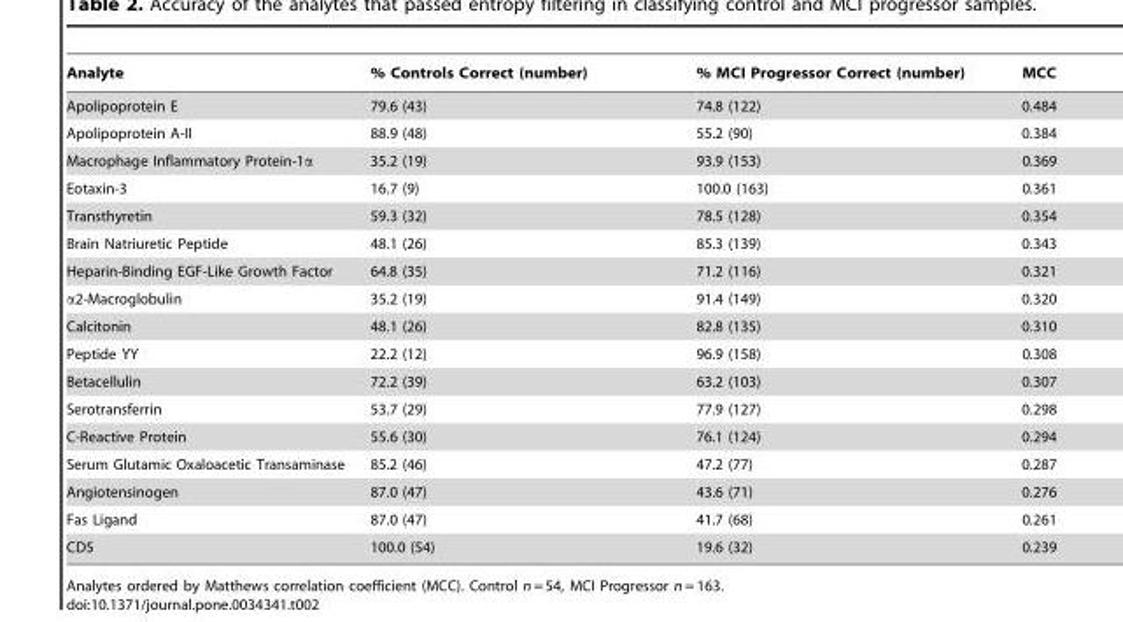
<table><thead><tr><td>Analyte</td><td>% Controls Correct (number)</td><td>% MCI Progressor Correct (number)</td><td>MCC</td></tr></thead><tbody><tr><td>Apolipoprotein E</td><td>79.6 (43)</td><td>74.8 (122)</td><td>0.484</td></tr><tr><td>Apolipoprotein A-II</td><td>88.9 (48)</td><td>55.2 (90)</td><td>0.384</td></tr><tr><td>Macrophage Inflammatory Protein-1α</td><td>35.2 (19)</td><td>93.9 (153)</td><td>0.369</td></tr><tr><td>Eotaxin-3</td><td>16.7 (9)</td><td>100.0 (163)</td><td>0.361</td></tr><tr><td>Transthyretin</td><td>59.3 (32)</td><td>78.5 (128)</td><td>0.354</td></tr><tr><td>Brain Natriuretic Peptide</td><td>48.1 (26)</td><td>85.3 (139)</td><td>0.343</td></tr><tr><td>Heparin-Binding EGF-Like Growth Factor</td><td>64.8 (35)</td><td>71.2 (116)</td><td>0.321</td></tr><tr><td>α2-Macroglobulin</td><td>35.2 (19)</td><td>91.4 (149)</td><td>0.320</td></tr><tr><td>Calcitonin</td><td>48.1 (26)</td><td>82.8 (135)</td><td>0.310</td></tr><tr><td>Peptide YY</td><td>22.2 (12)</td><td>96.9 (158)</td><td>0.308</td></tr><tr><td>Betacellulin</td><td>72.2 (39)</td><td>63.2 (103)</td><td>0.307</td></tr><tr><td>Serotransferrin</td><td>53.7 (29)</td><td>77.9 (127)</td><td>0.298</td></tr><tr><td>C-Reactive Protein</td><td>55.6 (30)</td><td>76.1 (124)</td><td>0.294</td></tr><tr><td>Serum Glutamic Oxaloacetic Transaminase</td><td>85.2 (46)</td><td>47.2 (77)</td><td>0.287</td></tr><tr><td>Angiotensinogen</td><td>87.0 (47)</td><td>43.6 (71)</td><td>0.276</td></tr><tr><td>Fas Ligand</td><td>87.0 (47)</td><td>41.7 (68)</td><td>0.261</td></tr><tr><td>CD5</td><td>100.0 (54)</td><td>19.6 (32)</td><td>0.239</td></tr></tbody></table>